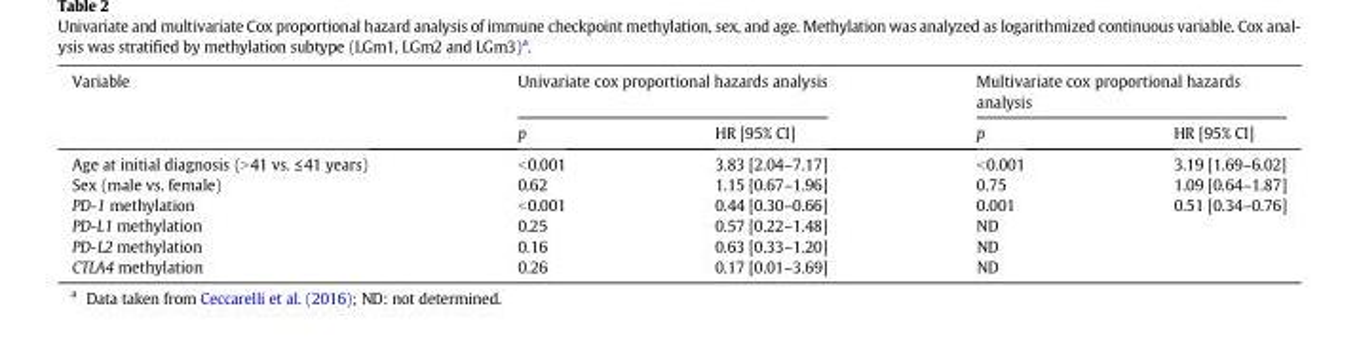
<table><thead><tr><td rowspan="2">Variable</td><td colspan="2">Univariate cox proportional hazards analysis</td><td colspan="2">Multivariate cox proportional hazards analysis</td></tr><tr><td>p</td><td>HR [95% CI]</td><td>p</td><td>HR [95% CI]</td></tr></thead><tbody><tr><td>Age at initial diagnosis (&gt;41 vs. ≤41 years)</td><td>&lt;0.001</td><td>3.83 [2.04–7.17]</td><td>&lt;0.001</td><td>3.19 [1.69–6.02]</td></tr><tr><td>Sex (male vs. female)</td><td>0.62</td><td>1.15 [0.67–1.96]</td><td>0.75</td><td>1.09 [0.64–1.87]</td></tr><tr><td>PD-1 methylation</td><td>&lt;0.001</td><td>0.44 [0.30–0.66]</td><td>0.001</td><td>0.51 [0.34–0.76]</td></tr><tr><td>PD-L1 methylation</td><td>0.25</td><td>0.57 [0.22–1.48]</td><td>ND</td><td></td></tr><tr><td>PD-L2 methylation</td><td>0.16</td><td>0.63 [0.33–1.20]</td><td>ND</td><td></td></tr><tr><td>CTLA4 methylation</td><td>0.26</td><td>0.17 [0.01–3.69]</td><td>ND</td><td></td></tr></tbody></table>